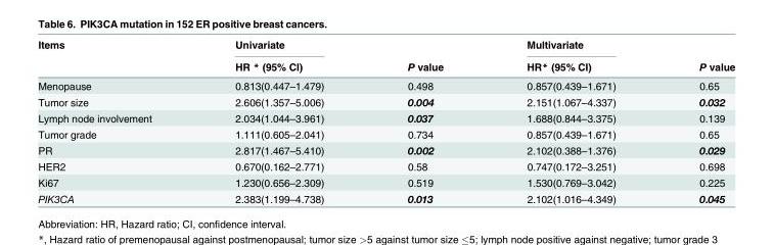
<table><thead><tr><td rowspan="2">Items</td><td rowspan="2">Univariate HR * (95% CI)</td><td rowspan="2">P value</td><td rowspan="2">Multivariate HR* (95% CI)</td><td rowspan="2">P value</td></tr><tr></tr></thead><tbody><tr><td>Menopause</td><td>0.813(0.447–1.479)</td><td>0.498</td><td>0.857(0.439–1.671)</td><td>0.65</td></tr><tr><td>Tumor size</td><td>2.606(1.357–5.006)</td><td>0.004</td><td>2.151(1.067–4.337)</td><td>0.032</td></tr><tr><td>Lymph node involvement</td><td>2.034(1.044–3.961)</td><td>0.037</td><td>1.688(0.844–3.375)</td><td>0.139</td></tr><tr><td>Tumor grade</td><td>1.111(0.605–2.041)</td><td>0.734</td><td>0.857(0.439–1.671)</td><td>0.65</td></tr><tr><td>PR</td><td>2.817(1.467–5.410)</td><td>0.002</td><td>2.102(0.388–1.376)</td><td>0.029</td></tr><tr><td>HER2</td><td>0.670(0.162–2.771)</td><td>0.58</td><td>0.747(0.172–3.251)</td><td>0.698</td></tr><tr><td>Ki67</td><td>1.230(0.656–2.309)</td><td>0.519</td><td>1.530(0.769–3.042)</td><td>0.225</td></tr><tr><td>PIK3CA</td><td>2.383(1.199–4.738)</td><td>0.013</td><td>2.102(1.016–4.349)</td><td>0.045</td></tr></tbody></table>